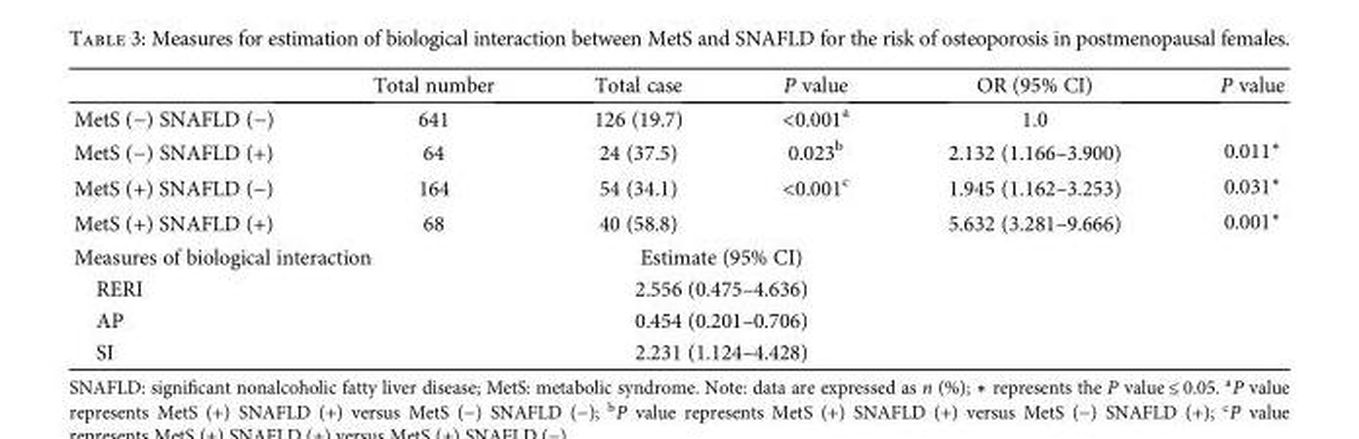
<table><thead><tr><td></td><td>Total number</td><td>Total case</td><td>P value</td><td>OR (95% CI)</td><td>P value</td></tr></thead><tbody><tr><td>MetS (−) SNAFLD (−)</td><td>641</td><td>126 (19.7)</td><td>&lt;0.001<sup>a</sup></td><td>1.0</td><td></td></tr><tr><td>MetS (−) SNAFLD (+)</td><td>64</td><td>24 (37.5)</td><td>0.023<sup>b</sup></td><td>2.132 (1.166–3.900)</td><td>0.011∗</td></tr><tr><td>MetS (+) SNAFLD (−)</td><td>164</td><td>54 (34.1)</td><td>&lt;0.001<sup>c</sup></td><td>1.945 (1.162–3.253)</td><td>0.031∗</td></tr><tr><td>MetS (+) SNAFLD (+)</td><td>68</td><td>40 (58.8)</td><td></td><td>5.632 (3.281–9.666)</td><td>0.001∗</td></tr><tr><td colspan="2">Measures of biological interaction</td><td colspan="2">Estimate (95% CI)</td><td></td><td></td></tr><tr><td>RERI</td><td></td><td colspan="2">2.556 (0.475–4.636)</td><td></td><td></td></tr><tr><td>AP</td><td></td><td colspan="2">0.454 (0.201–0.706)</td><td></td><td></td></tr><tr><td>SI</td><td></td><td colspan="2">2.231 (1.124–4.428)</td><td></td><td></td></tr></tbody></table>